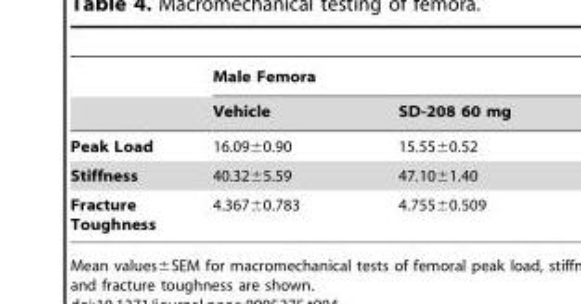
<table><thead><tr><td rowspan="2"></td><td colspan="2">Male Femora</td></tr><tr><td>Vehicle</td><td>SD-208 60 mg</td></tr></thead><tbody><tr><td>Peak Load</td><td>16.09±0.90</td><td>15.55±0.52</td></tr><tr><td>Stiffness</td><td>40.32±5.59</td><td>47.10±1.40</td></tr><tr><td>Fracture Toughness</td><td>4.367±0.783</td><td>4.755±0.509</td></tr></tbody></table>